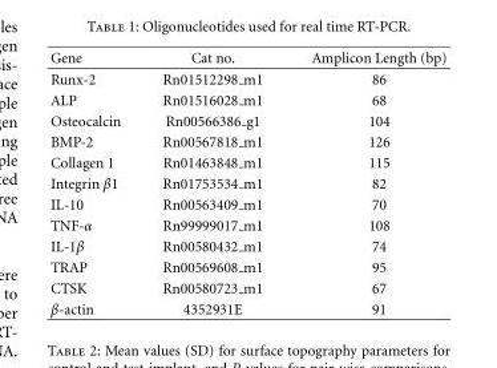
<table><thead><tr><td>Gene</td><td>Cat no.</td><td>Amplicon Length (bp)</td></tr></thead><tbody><tr><td>Runx-2</td><td>Rn01512298 m1</td><td>86</td></tr><tr><td>ALP</td><td>Rn01516028 m1</td><td>68</td></tr><tr><td>Osteocalcin</td><td>Rn00566386 g1</td><td>104</td></tr><tr><td>BMP-2</td><td>Rn00567818 m1</td><td>126</td></tr><tr><td>Collagen 1</td><td>Rn01463848 m1</td><td>115</td></tr><tr><td>Integrin β1</td><td>Rn01753534 m1</td><td>82</td></tr><tr><td>IL-10</td><td>Rn00563409 m1</td><td>70</td></tr><tr><td>TNF-α</td><td>Rn99999017 m1</td><td>108</td></tr><tr><td>IL-1β</td><td>Rn00580432 m1</td><td>74</td></tr><tr><td>TRAP</td><td>Rn00569608 m1</td><td>95</td></tr><tr><td>CTSK</td><td>Rn00580723 m1</td><td>67</td></tr><tr><td>β-actin</td><td>4352931E</td><td>91</td></tr></tbody></table>